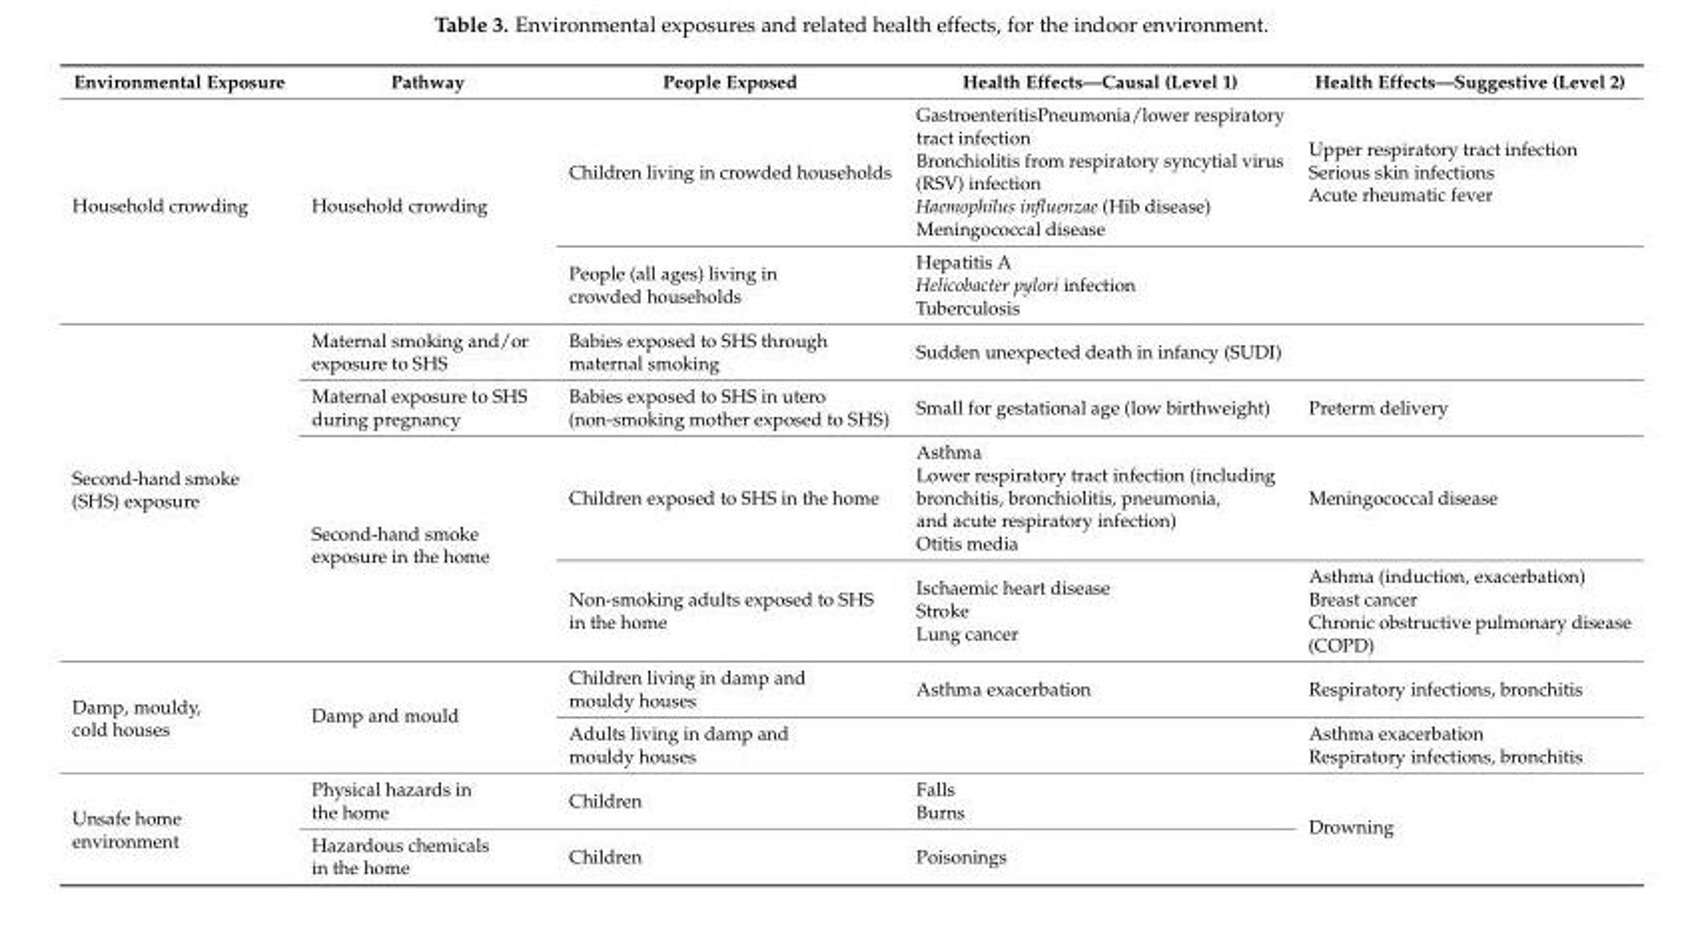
<table><thead><tr><td>Environmental Exposure</td><td>Pathway</td><td>People Exposed</td><td>Health Effects—Causal (Level 1)</td><td>Health Effects—Suggestive (Level 2)</td></tr></thead><tbody><tr><td rowspan="2">Household crowding</td><td rowspan="2">Household crowding</td><td>Children living in crowded households</td><td>GastroenteritisPneumonia/lower respiratory tract infection Bronchiolitis from respiratory syncytial virus (RSV) infection Haemophilus influenzae (Hib disease) Meningococcal disease</td><td>Upper respiratory tract infection Serious skin infections Acute rheumatic fever</td></tr><tr><td>People (all ages) living in crowded households</td><td>Hepatitis A Helicobacter pylori infection Tuberculosis</td><td></td></tr><tr><td rowspan="4">Second-hand smoke (SHS) exposure</td><td>Maternal smoking and/or exposure to SHS</td><td>Babies exposed to SHS through maternal smoking</td><td>Sudden unexpected death in infancy (SUDI)</td><td></td></tr><tr><td>Maternal exposure to SHS during pregnancy</td><td>Babies exposed to SHS in utero (non-smoking mother exposed to SHS)</td><td>Small for gestational age (low birthweight)</td><td>Preterm delivery</td></tr><tr><td rowspan="2">Second-hand smoke exposure in the home</td><td>Children exposed to SHS in the home</td><td>Asthma Lower respiratory tract infection (including bronchitis, bronchiolitis, pneumonia, and acute respiratory infection) Otitis media</td><td>Meningococcal disease</td></tr><tr><td>Non-smoking adults exposed to SHS in the home</td><td>Ischaemic heart disease Stroke Lung cancer</td><td>Asthma (induction, exacerbation) Breast cancer Chronic obstructive pulmonary disease (COPD)</td></tr><tr><td rowspan="2">Damp, mouldy, cold houses</td><td rowspan="2">Damp and mould</td><td>Children living in damp and mouldy houses</td><td>Asthma exacerbation</td><td>Respiratory infections, bronchitis</td></tr><tr><td>Adults living in damp and mouldy houses</td><td></td><td>Asthma exacerbation Respiratory infections, bronchitis</td></tr><tr><td rowspan="2">Unsafe home environment</td><td>Physical hazards in the home</td><td>Children</td><td>Falls Burns</td><td rowspan="2">Drowning</td></tr><tr><td>Hazardous chemicals in the home</td><td>Children</td><td>Poisonings</td></tr></tbody></table>